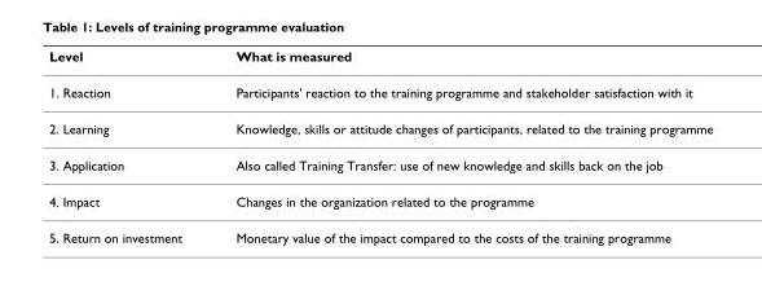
<table><thead><tr><td>Level</td><td>What is measured</td></tr></thead><tbody><tr><td>1. Reaction</td><td>Participants&#x27; reaction to the training programme and stakeholder satisfaction with it</td></tr><tr><td>2. Learning</td><td>Knowledge, skills or attitude changes of participants, related to the training programme</td></tr><tr><td>3. Application</td><td>Also called Training Transfer: use of new knowledge and skills back on the job</td></tr><tr><td>4. Impact</td><td>Changes in the organization related to the programme</td></tr><tr><td>5. Return on investment</td><td>Monetary value of the impact compared to the costs of the training programme</td></tr></tbody></table>